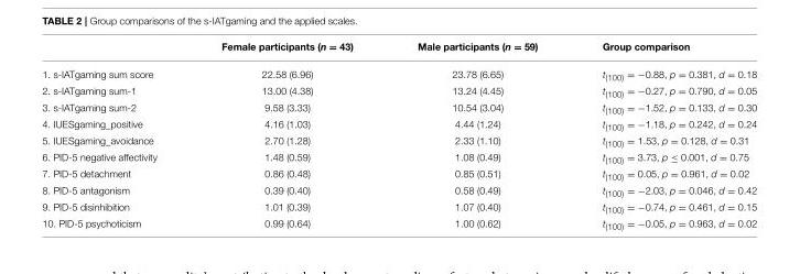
<table><thead><tr><td></td><td>Female participants (n = 43)</td><td>Male participants (n = 59)</td><td>Group comparison</td></tr></thead><tbody><tr><td>1. s-IATgaming sum score</td><td>22.58 (6.96)</td><td>23.78 (6.65)</td><td>t<sub>(100)</sub> = −0.88, p = 0.381, d = 0.18</td></tr><tr><td>2. s-IATgaming sum-1</td><td>13.00 (4.38)</td><td>13.24 (4.45)</td><td>t<sub>(100)</sub> = −0.27, p = 0.790, d = 0.05</td></tr><tr><td>3. s-IATgaming sum-2</td><td>9.58 (3.33)</td><td>10.54 (3.04)</td><td>t<sub>(100)</sub> = −1.52, p = 0.133, d = 0.30</td></tr><tr><td>4. IUESgaming_positive</td><td>4.16 (1.03)</td><td>4.44 (1.24)</td><td>t<sub>(100)</sub> = −1.18, p = 0.242, d = 0.24</td></tr><tr><td>5. IUESgaming_avoidance</td><td>2.70 (1.28)</td><td>2.33 (1.10)</td><td>t<sub>(100)</sub> = 1.53, p = 0.128, d = 0.31</td></tr><tr><td>6. PID-5 negative affectivity</td><td>1.48 (0.59)</td><td>1.08 (0.49)</td><td>t<sub>(100)</sub> = 3.73, p ≤ 0.001, d = 0.75</td></tr><tr><td>7. PID-5 detachment</td><td>0.86 (0.48)</td><td>0.85 (0.51)</td><td>t<sub>(100)</sub> = 0.05, p = 0.961, d = 0.02</td></tr><tr><td>8. PID-5 antagonism</td><td>0.39 (0.40)</td><td>0.58 (0.49)</td><td>t<sub>(100)</sub> = −2.03, p = 0.046, d = 0.42</td></tr><tr><td>9. PID-5 disinhibition</td><td>1.01 (0.39)</td><td>1.07 (0.40)</td><td>t<sub>(100)</sub> = −0.74, p = 0.461, d = 0.15</td></tr><tr><td>10. PID-5 psychoticism</td><td>0.99 (0.64)</td><td>1.00 (0.62)</td><td>t<sub>(100)</sub> = −0.05, p = 0.963, d = 0.02</td></tr></tbody></table>